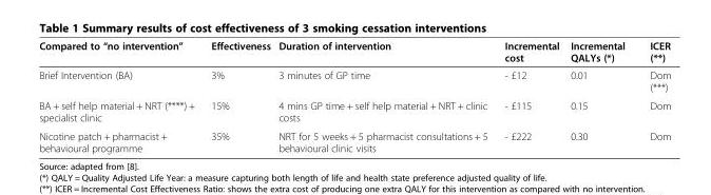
<table><thead><tr><td>Compared to “no intervention”</td><td>Effectiveness</td><td>Duration of intervention</td><td>Incremental cost</td><td>Incremental QALYs (*)</td><td>ICER (**)</td></tr></thead><tbody><tr><td>Brief Intervention (BA)</td><td>3%</td><td>3 minutes of GP time</td><td>- £12</td><td>0.01</td><td>Dom (***)</td></tr><tr><td>BA + self help material + NRT (****) + specialist clinic</td><td>15%</td><td>4 mins GP time + self help material + NRT + clinic costs</td><td>- £115</td><td>0.15</td><td>Dom</td></tr><tr><td>Nicotine patch + pharmacist + behavioural programme</td><td>35%</td><td>NRT for 5 weeks + 5 pharmacist consultations + 5 behavioural clinic visits</td><td>- £222</td><td>0.30</td><td>Dom</td></tr></tbody></table>